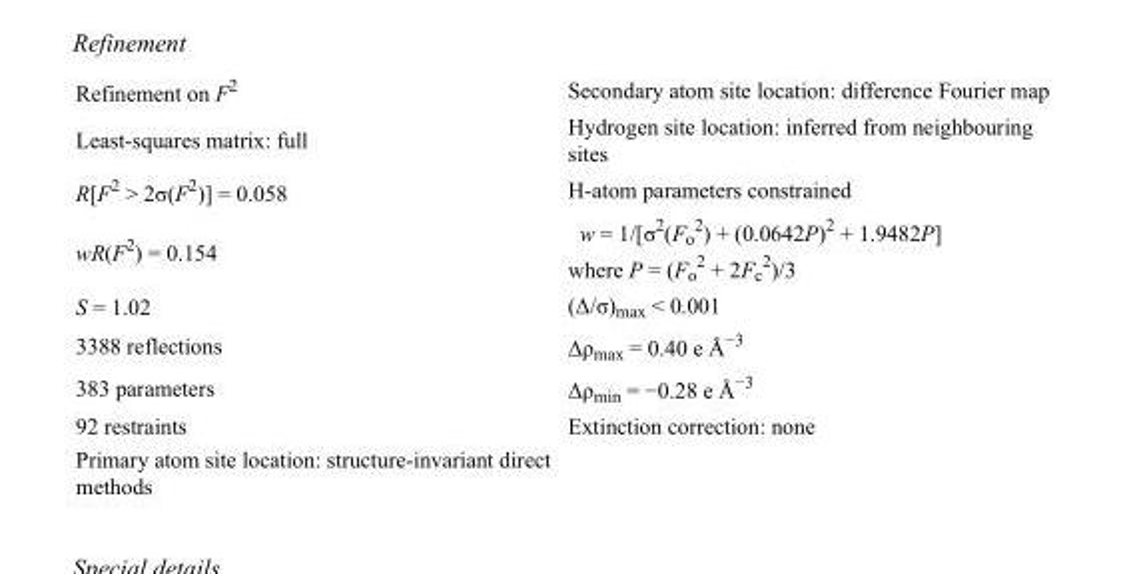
<table><tbody><tr><td>Refinement on F<sup>2</sup></td><td>Secondary atom site location: difference Fourier map</td></tr><tr><td>Least-squares matrix: full</td><td>Hydrogen site location: inferred from neighbouring sites</td></tr><tr><td>R[F<sup>2</sup> &gt; 2σ(F<sup>2</sup>)] = 0.058</td><td>H-atom parameters constrained</td></tr><tr><td>wR(F<sup>2</sup>) = 0.154</td><td>w = 1/[σ<sup>2</sup>(F<sub>o</sub> <sup>2</sup>) + (0.0642P)<sup>2</sup> + 1.9482P] where P = (F<sub>o</sub> <sup>2</sup> + 2F<sub>c</sub> <sup>2</sup>)/3</td></tr><tr><td>S = 1.02</td><td>(Δ/σ)<sub>max</sub> &lt; 0.001</td></tr><tr><td>3388 reflections</td><td>Δρ<sub>max</sub> = 0.40 e Å<sup>−3</sup></td></tr><tr><td>383 parameters</td><td>Δρ<sub>min</sub> = −0.28 e Å<sup>−3</sup></td></tr><tr><td>92 restraints</td><td>Extinction correction: none</td></tr><tr><td>Primary atom site location: structure-invariant direct methods</td><td></td></tr></tbody></table>